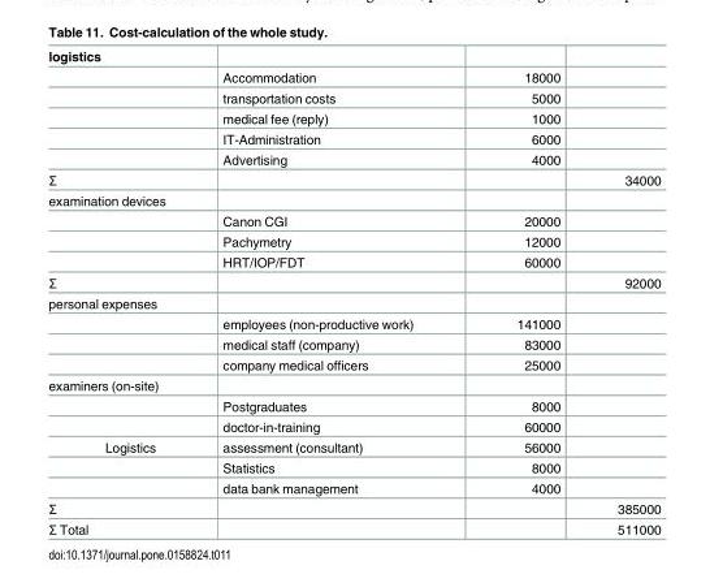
<table><thead><tr><td>logistics</td><td></td><td></td><td></td></tr></thead><tbody><tr><td></td><td>Accommodation</td><td>18000</td><td></td></tr><tr><td></td><td>transportation costs</td><td>5000</td><td></td></tr><tr><td></td><td>medical fee (reply)</td><td>1000</td><td></td></tr><tr><td></td><td>IT-Administration</td><td>6000</td><td></td></tr><tr><td></td><td>Advertising</td><td>4000</td><td></td></tr><tr><td>Σ</td><td></td><td></td><td>34000</td></tr><tr><td colspan="4">examination devices</td></tr><tr><td></td><td>Canon CGI</td><td>20000</td><td></td></tr><tr><td></td><td>Pachymetry</td><td>12000</td><td></td></tr><tr><td></td><td>HRT/IOP/FDT</td><td>60000</td><td></td></tr><tr><td>Σ</td><td></td><td></td><td>92000</td></tr><tr><td colspan="4">personal expenses</td></tr><tr><td></td><td>employees (non-productive work)</td><td>141000</td><td></td></tr><tr><td></td><td>medical staff (company)</td><td>83000</td><td></td></tr><tr><td></td><td>company medical officers</td><td>25000</td><td></td></tr><tr><td colspan="4">examiners (on-site)</td></tr><tr><td></td><td>Postgraduates</td><td>8000</td><td></td></tr><tr><td></td><td>doctor-in-training</td><td>60000</td><td></td></tr><tr><td rowspan="3">Logistics</td><td>assessment (consultant)</td><td>56000</td><td></td></tr><tr><td>Statistics</td><td>8000</td><td></td></tr><tr><td>data bank management</td><td>4000</td><td></td></tr><tr><td>Σ</td><td></td><td></td><td>385000</td></tr><tr><td>Σ Total</td><td></td><td></td><td>511000</td></tr></tbody></table>